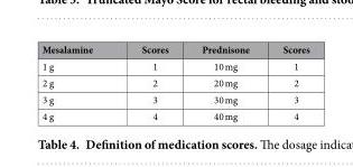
<table><thead><tr><td>Mesalamine</td><td>Scores</td><td>Prednisone</td><td>Scores</td></tr></thead><tbody><tr><td>1 g</td><td>1</td><td>10 mg</td><td>1</td></tr><tr><td>2 g</td><td>2</td><td>20 mg</td><td>2</td></tr><tr><td>3 g</td><td>3</td><td>30 mg</td><td>3</td></tr><tr><td>4 g</td><td>4</td><td>40 mg</td><td>4</td></tr></tbody></table>